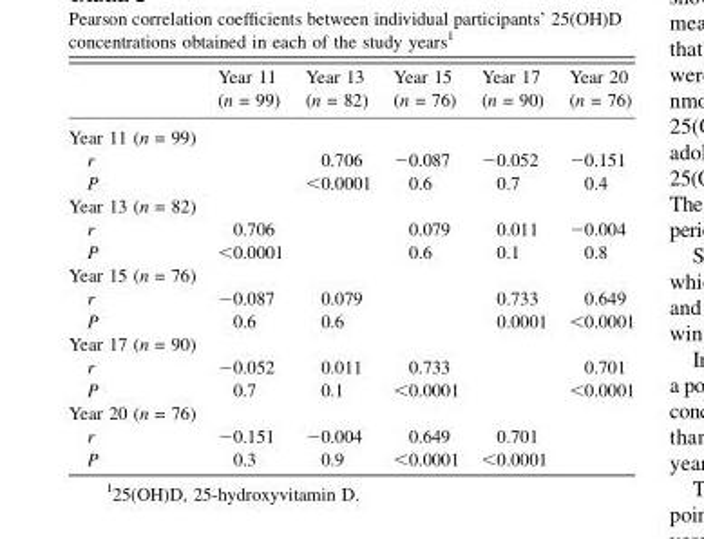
<table><thead><tr><td></td><td>Year 11 (n = 99)</td><td>Year 13 (n = 82)</td><td>Year 15 (n = 76)</td><td>Year 17 (n = 90)</td><td>Year 20 (n = 76)</td></tr></thead><tbody><tr><td colspan="6">Year 11 (n = 99)</td></tr><tr><td>r</td><td></td><td>0.706</td><td>−0.087</td><td>−0.052</td><td>−0.151</td></tr><tr><td>P</td><td></td><td>&lt;0.0001</td><td>0.6</td><td>0.7</td><td>0.4</td></tr><tr><td colspan="6">Year 13 (n = 82)</td></tr><tr><td>r</td><td>0.706</td><td></td><td>0.079</td><td>0.011</td><td>−0.004</td></tr><tr><td>P</td><td>&lt;0.0001</td><td></td><td>0.6</td><td>0.1</td><td>0.8</td></tr><tr><td colspan="6">Year 15 (n = 76)</td></tr><tr><td>r</td><td>−0.087</td><td>0.079</td><td></td><td>0.733</td><td>0.649</td></tr><tr><td>P</td><td>0.6</td><td>0.6</td><td></td><td>0.0001</td><td>&lt;0.0001</td></tr><tr><td colspan="6">Year 17 (n = 90)</td></tr><tr><td>r</td><td>−0.052</td><td>0.011</td><td>0.733</td><td></td><td>0.701</td></tr><tr><td>P</td><td>0.7</td><td>0.1</td><td>&lt;0.0001</td><td></td><td>&lt;0.0001</td></tr><tr><td colspan="6">Year 20 (n = 76)</td></tr><tr><td>r</td><td>−0.151</td><td>−0.004</td><td>0.649</td><td>0.701</td><td></td></tr><tr><td>P</td><td>0.3</td><td>0.9</td><td>&lt;0.0001</td><td>&lt;0.0001</td><td></td></tr></tbody></table>